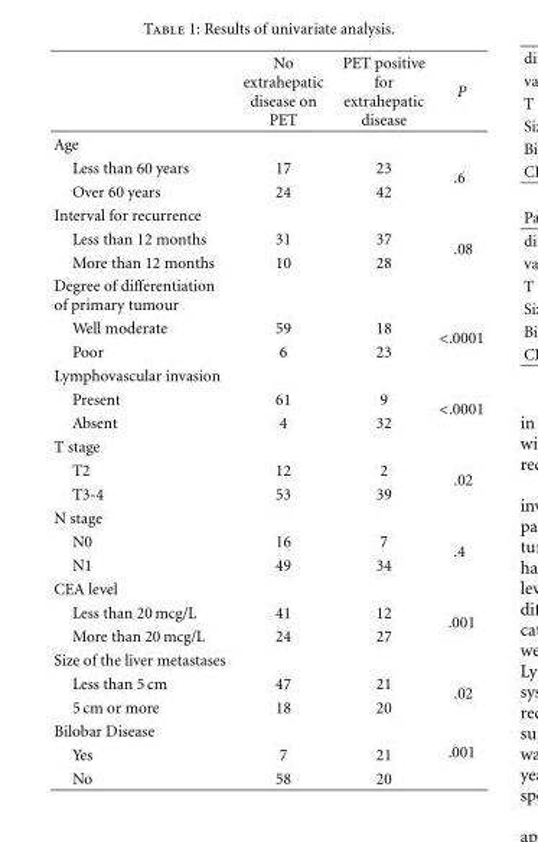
<table><thead><tr><td></td><td>No extrahepatic disease on PET</td><td>PET positive for extrahepatic disease</td><td>P</td></tr></thead><tbody><tr><td colspan="4">Age</td></tr><tr><td>Less than 60 years</td><td>17</td><td>23</td><td rowspan="2">.6</td></tr><tr><td>Over 60 years</td><td>24</td><td>42</td></tr><tr><td colspan="4">Interval for recurrence</td></tr><tr><td>Less than 12 months</td><td>31</td><td>37</td><td rowspan="2">.08</td></tr><tr><td>More than 12 months</td><td>10</td><td>28</td></tr><tr><td colspan="4">Degree of differentiation of primary tumour</td></tr><tr><td>Well moderate</td><td>59</td><td>18</td><td rowspan="2">&lt;.0001</td></tr><tr><td>Poor</td><td>6</td><td>23</td></tr><tr><td colspan="4">Lymphovascular invasion</td></tr><tr><td>Present</td><td>61</td><td>9</td><td rowspan="2">&lt;.0001</td></tr><tr><td>Absent</td><td>4</td><td>32</td></tr><tr><td colspan="4">T stage</td></tr><tr><td>T2</td><td>12</td><td>2</td><td rowspan="2">.02</td></tr><tr><td>T3-4</td><td>53</td><td>39</td></tr><tr><td colspan="4">N stage</td></tr><tr><td>N0</td><td>16</td><td>7</td><td rowspan="2">.4</td></tr><tr><td>N1</td><td>49</td><td>34</td></tr><tr><td colspan="4">CEA level</td></tr><tr><td>Less than 20 mcg/L</td><td>41</td><td>12</td><td rowspan="2">.001</td></tr><tr><td>More than 20 mcg/L</td><td>24</td><td>27</td></tr><tr><td colspan="4">Size of the liver metastases</td></tr><tr><td>Less than 5 cm</td><td>47</td><td>21</td><td rowspan="2">.02</td></tr><tr><td>5 cm or more</td><td>18</td><td>20</td></tr><tr><td colspan="3">Bilobar Disease</td><td rowspan="3">.001</td></tr><tr><td>Yes</td><td>7</td><td>21</td></tr><tr><td>No</td><td>58</td><td>20</td></tr></tbody></table>